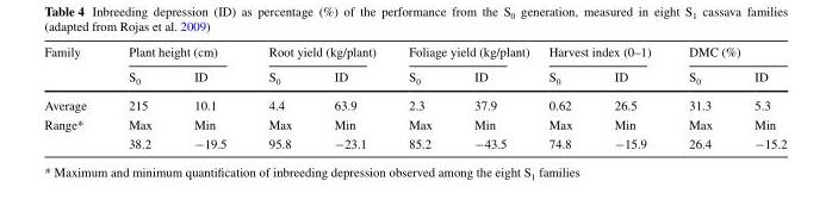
<table><thead><tr><td rowspan="2">Family</td><td colspan="2">Plant height (cm)</td><td colspan="2">Root yield (kg/plant)</td><td colspan="2">Foliage yield (kg/plant)</td><td colspan="2">Harvest index (0–1)</td><td colspan="2">DMC (%)</td></tr><tr><td>S<sub>0</sub></td><td>ID</td><td>S<sub>0</sub></td><td>ID</td><td>S<sub>0</sub></td><td>ID</td><td>S<sub>0</sub></td><td>ID</td><td>S<sub>0</sub></td><td>ID</td></tr></thead><tbody><tr><td>Average</td><td>215</td><td>10.1</td><td>4.4</td><td>63.9</td><td>2.3</td><td>37.9</td><td>0.62</td><td>26.5</td><td>31.3</td><td>5.3</td></tr><tr><td rowspan="2">Range*</td><td>Max</td><td>Min</td><td>Max</td><td>Min</td><td>Max</td><td>Min</td><td>Max</td><td>Min</td><td>Max</td><td>Min</td></tr><tr><td>38.2</td><td>−19.5</td><td>95.8</td><td>−23.1</td><td>85.2</td><td>−43.5</td><td>74.8</td><td>−15.9</td><td>26.4</td><td>−15.2</td></tr></tbody></table>